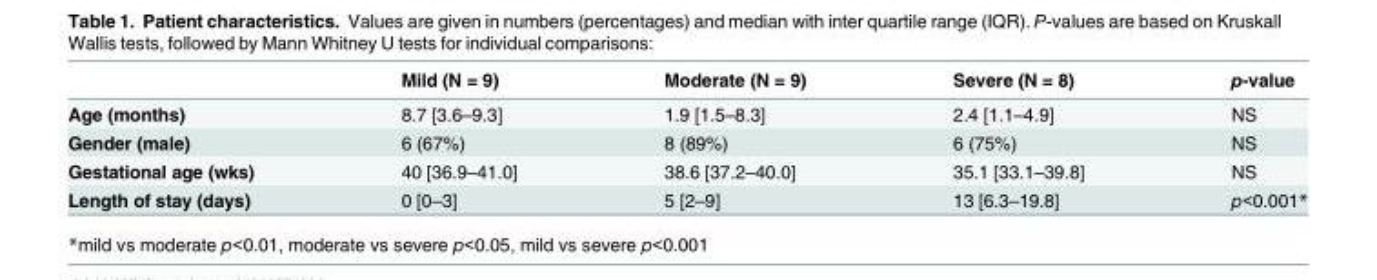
<table><thead><tr><td></td><td>Mild (N = 9)</td><td>Moderate (N = 9)</td><td>Severe (N = 8)</td><td>p-value</td></tr></thead><tbody><tr><td>Age (months)</td><td>8.7 [3.6–9.3]</td><td>1.9 [1.5–8.3]</td><td>2.4 [1.1–4.9]</td><td>NS</td></tr><tr><td>Gender (male)</td><td>6 (67%)</td><td>8 (89%)</td><td>6 (75%)</td><td>NS</td></tr><tr><td>Gestational age (wks)</td><td>40 [36.9–41.0]</td><td>38.6 [37.2–40.0]</td><td>35.1 [33.1–39.8]</td><td>NS</td></tr><tr><td>Length of stay (days)</td><td>0 [0–3]</td><td>5 [2–9]</td><td>13 [6.3–19.8]</td><td>p&lt;0.001*</td></tr></tbody></table>